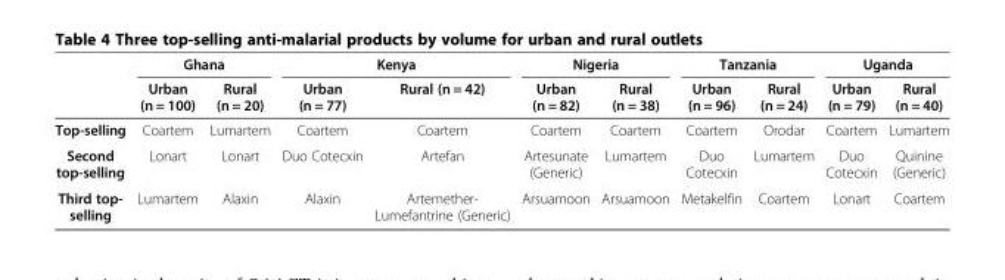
<table><thead><tr><td rowspan="2"></td><td colspan="2">Ghana</td><td colspan="2">Kenya</td><td colspan="2">Nigeria</td><td colspan="2">Tanzania</td><td colspan="2">Uganda</td></tr><tr><td>Urban (n = 100)</td><td>Rural (n = 20)</td><td>Urban (n = 77)</td><td>Rural (n = 42)</td><td>Urban (n = 82)</td><td>Rural (n = 38)</td><td>Urban (n = 96)</td><td>Rural (n = 24)</td><td>Urban (n = 79)</td><td>Rural (n = 40)</td></tr></thead><tbody><tr><td>Top-selling</td><td>Coartem</td><td>Lumartem</td><td>Coartem</td><td>Coartem</td><td>Coartem</td><td>Coartem</td><td>Coartem</td><td>Orodar</td><td>Coartem</td><td>Lumartem</td></tr><tr><td>Second top-selling</td><td>Lonart</td><td>Lonart</td><td>Duo Cotecxin</td><td>Artefan</td><td>Artesunate (Generic)</td><td>Lumartem</td><td>Duo Cotecxin</td><td>Lumartem</td><td>Duo Cotecxin</td><td>Quinine (Generic)</td></tr><tr><td>Third top- selling</td><td>Lumartem</td><td>Alaxin</td><td>Alaxin</td><td>Artemether- Lumefantrine (Generic)</td><td>Arsuamoon</td><td>Arsuamoon</td><td>Metakelfin</td><td>Coartem</td><td>Lonart</td><td>Coartem</td></tr></tbody></table>